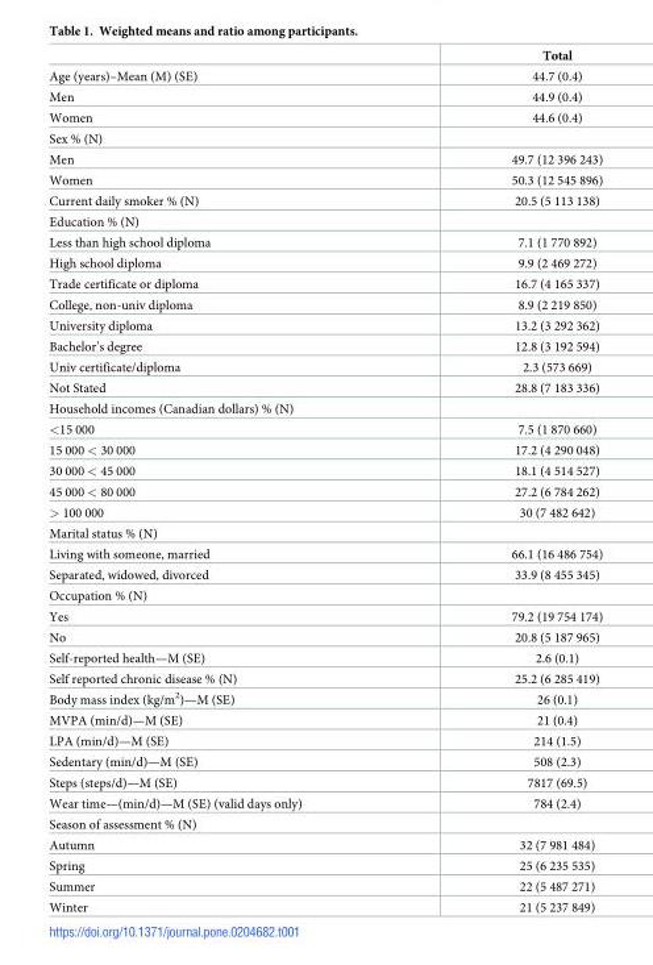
<table><thead><tr><td></td><td>Total</td></tr></thead><tbody><tr><td>Age (years)–Mean (M) (SE)</td><td>44.7 (0.4)</td></tr><tr><td>Men</td><td>44.9 (0.4)</td></tr><tr><td>Women</td><td>44.6 (0.4)</td></tr><tr><td colspan="2">Sex % (N)</td></tr><tr><td>Men</td><td>49.7 (12 396 243)</td></tr><tr><td>Women</td><td>50.3 (12 545 896)</td></tr><tr><td>Current daily smoker % (N)</td><td>20.5 (5 113 138)</td></tr><tr><td colspan="2">Education % (N)</td></tr><tr><td>Less than high school diploma</td><td>7.1 (1 770 892)</td></tr><tr><td>High school diploma</td><td>9.9 (2 469 272)</td></tr><tr><td>Trade certificate or diploma</td><td>16.7 (4 165 337)</td></tr><tr><td>College, non-univ diploma</td><td>8.9 (2 219 850)</td></tr><tr><td>University diploma</td><td>13.2 (3 292 362)</td></tr><tr><td>Bachelor’s degree</td><td>12.8 (3 192 594)</td></tr><tr><td>Univ certificate/diploma</td><td>2.3 (573 669)</td></tr><tr><td>Not Stated</td><td>28.8 (7 183 336)</td></tr><tr><td colspan="2">Household incomes (Canadian dollars) % (N)</td></tr><tr><td>&lt;15 000</td><td>7.5 (1 870 660)</td></tr><tr><td>15 000 &lt; 30 000</td><td>17.2 (4 290 048)</td></tr><tr><td>30 000 &lt; 45 000</td><td>18.1 (4 514 527)</td></tr><tr><td>45 000 &lt; 80 000</td><td>27.2 (6 784 262)</td></tr><tr><td>&gt; 100 000</td><td>30 (7 482 642)</td></tr><tr><td colspan="2">Marital status % (N)</td></tr><tr><td>Living with someone, married</td><td>66.1 (16 486 754)</td></tr><tr><td>Separated, widowed, divorced</td><td>33.9 (8 455 345)</td></tr><tr><td colspan="2">Occupation % (N)</td></tr><tr><td>Yes</td><td>79.2 (19 754 174)</td></tr><tr><td>No</td><td>20.8 (5 187 965)</td></tr><tr><td>Self-reported health—M (SE)</td><td>2.6 (0.1)</td></tr><tr><td>Self reported chronic disease % (N)</td><td>25.2 (6 285 419)</td></tr><tr><td>Body mass index (kg/m<sup>2</sup>)—M (SE)</td><td>26 (0.1)</td></tr><tr><td>MVPA (min/d)—M (SE)</td><td>21 (0.4)</td></tr><tr><td>LPA (min/d)—M (SE)</td><td>214 (1.5)</td></tr><tr><td>Sedentary (min/d)—M (SE)</td><td>508 (2.3)</td></tr><tr><td>Steps (steps/d)—M (SE)</td><td>7817 (69.5)</td></tr><tr><td>Wear time—(min/d)—M (SE) (valid days only)</td><td>784 (2.4)</td></tr><tr><td colspan="2">Season of assessment % (N)</td></tr><tr><td>Autumn</td><td>32 (7 981 484)</td></tr><tr><td>Spring</td><td>25 (6 235 535)</td></tr><tr><td>Summer</td><td>22 (5 487 271)</td></tr><tr><td>Winter</td><td>21 (5 237 849)</td></tr></tbody></table>